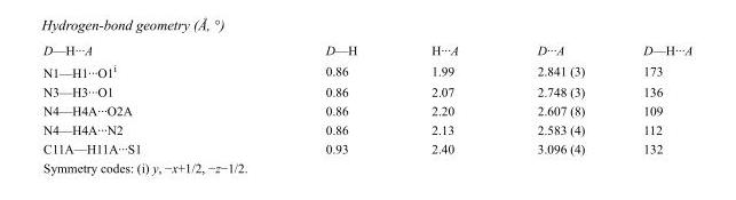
<table><tbody><tr><td>D—H···A</td><td>D—H</td><td>H···A</td><td>D···A</td><td>D—H···A</td></tr><tr><td>N1—H1···O1<sup>i</sup></td><td>0.86</td><td>1.99</td><td>2.841 (3)</td><td>173</td></tr><tr><td>N3—H3···O1</td><td>0.86</td><td>2.07</td><td>2.748 (3)</td><td>136</td></tr><tr><td>N4—H4A···O2A</td><td>0.86</td><td>2.20</td><td>2.607 (8)</td><td>109</td></tr><tr><td>N4—H4A···N2</td><td>0.86</td><td>2.13</td><td>2.583 (4)</td><td>112</td></tr><tr><td>C11A—H11A···S1</td><td>0.93</td><td>2.40</td><td>3.096 (4)</td><td>132</td></tr></tbody></table>